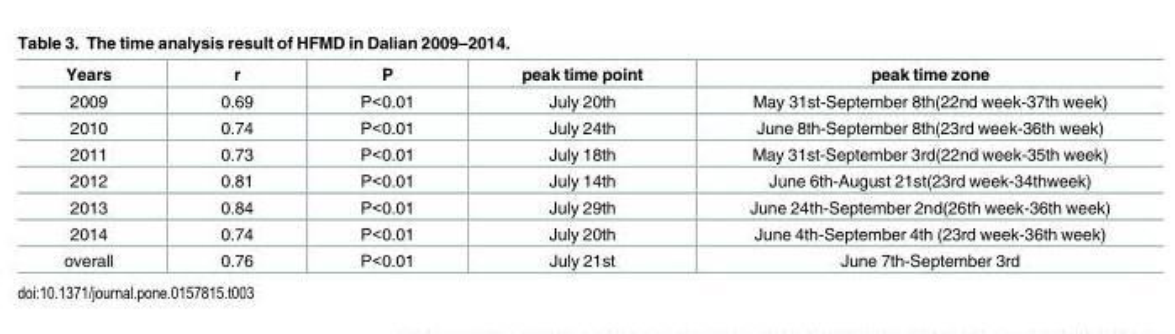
<table><thead><tr><td>Years</td><td>r</td><td>P</td><td>peak time point</td><td>peak time zone</td></tr></thead><tbody><tr><td>2009</td><td>0.69</td><td>P&lt;0.01</td><td>July 20th</td><td>May 31st-September 8th(22nd week-37th week)</td></tr><tr><td>2010</td><td>0.74</td><td>P&lt;0.01</td><td>July 24th</td><td>June 8th-September 8th(23rd week-36th week)</td></tr><tr><td>2011</td><td>0.73</td><td>P&lt;0.01</td><td>July 18th</td><td>May 31st-September 3rd(22nd week-35th week)</td></tr><tr><td>2012</td><td>0.81</td><td>P&lt;0.01</td><td>July 14th</td><td>June 6th-August 21st(23rd week-34thweek)</td></tr><tr><td>2013</td><td>0.84</td><td>P&lt;0.01</td><td>July 29th</td><td>June 24th-September 2nd(26th week-36th week)</td></tr><tr><td>2014</td><td>0.74</td><td>P&lt;0.01</td><td>July 20th</td><td>June 4th-September 4th (23rd week-36th week)</td></tr><tr><td>overall</td><td>0.76</td><td>P&lt;0.01</td><td>July 21st</td><td>June 7th-September 3rd</td></tr></tbody></table>